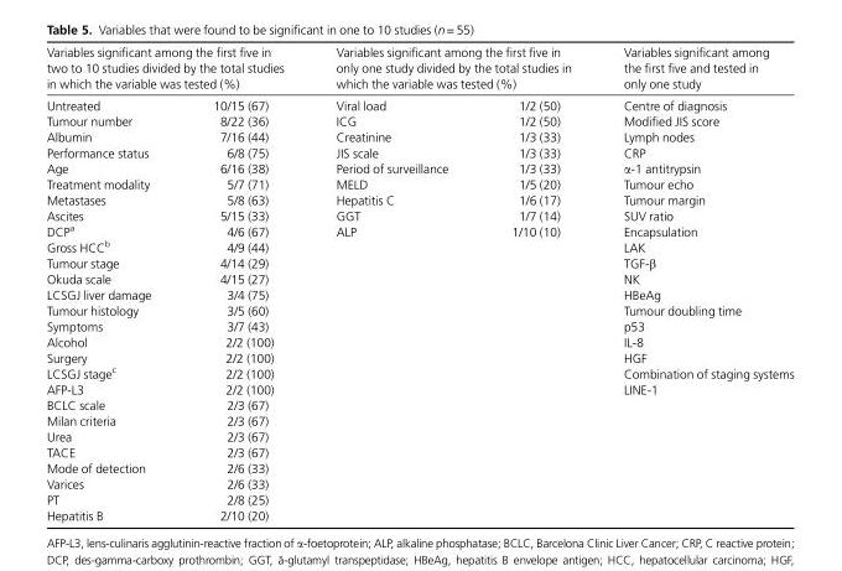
<table><thead><tr><td colspan="2">Variables significant among the first five in two to 10 studies divided by the total studies in which the variable was tested (%)</td><td colspan="2">Variables significant among the first five in only one study divided by the total studies in which the variable was tested (%)</td><td rowspan="2">Variables significant among the first five and tested in only one study Centre of diagnosis</td></tr><tr><td>Untreated</td><td>10/15 (67)</td><td>Viral load</td><td>1/2 (50)</td></tr></thead><tbody><tr><td>Tumour number</td><td>8/22 (36)</td><td>ICG</td><td>1/2 (50)</td><td>Modified JIS score</td></tr><tr><td>Albumin</td><td>7/16 (44)</td><td>Creatinine</td><td>1/3 (33)</td><td>Lymph nodes</td></tr><tr><td>Performance status</td><td>6/8 (75)</td><td>JIS scale</td><td>1/3 (33)</td><td>CRP</td></tr><tr><td>Age</td><td>6/16 (38)</td><td>Period of surveillance</td><td>1/3 (33)</td><td>α-1 antitrypsin</td></tr><tr><td>Treatment modality</td><td>5/7 (71)</td><td>MELD</td><td>1/5 (20)</td><td>Tumour echo</td></tr><tr><td>Metastases</td><td>5/8 (63)</td><td>Hepatitis C</td><td>1/6 (17)</td><td>Tumour margin</td></tr><tr><td>Ascites</td><td>5/15 (33)</td><td>GGT</td><td>1/7 (14)</td><td>SUV ratio</td></tr><tr><td>DCP<sup>a</sup></td><td>4/6 (67)</td><td>ALP</td><td>1/10 (10)</td><td>Encapsulation</td></tr><tr><td>Gross HCC<sup>b</sup></td><td>4/9 (44)</td><td></td><td></td><td>LAK</td></tr><tr><td>Tumour stage</td><td>4/14 (29)</td><td></td><td></td><td>TGF-β</td></tr><tr><td>Okuda scale</td><td>4/15 (27)</td><td></td><td></td><td>NK</td></tr><tr><td>LCSGJ liver damage</td><td>3/4 (75)</td><td></td><td></td><td>HBeAg</td></tr><tr><td>Tumour histology</td><td>3/5 (60)</td><td></td><td></td><td>Tumour doubling time</td></tr><tr><td>Symptoms</td><td>3/7 (43)</td><td></td><td></td><td>p53</td></tr><tr><td>Alcohol</td><td>2/2 (100)</td><td></td><td></td><td>IL-8</td></tr><tr><td>Surgery</td><td>2/2 (100)</td><td></td><td></td><td>HGF</td></tr><tr><td>LCSGJ stage<sup>c</sup></td><td>2/2 (100)</td><td></td><td></td><td>Combination of staging systems</td></tr><tr><td>AFP-L3</td><td>2/2 (100)</td><td></td><td></td><td>LINE-1</td></tr><tr><td>BCLC scale</td><td>2/3 (67)</td><td></td><td></td><td></td></tr><tr><td>Milan criteria</td><td>2/3 (67)</td><td></td><td></td><td></td></tr><tr><td>Urea</td><td>2/3 (67)</td><td></td><td></td><td></td></tr><tr><td>TACE</td><td>2/3 (67)</td><td></td><td></td><td></td></tr><tr><td>Mode of detection</td><td>2/6 (33)</td><td></td><td></td><td></td></tr><tr><td>Varices</td><td>2/6 (33)</td><td></td><td></td><td></td></tr><tr><td>PT</td><td>2/8 (25)</td><td></td><td></td><td></td></tr><tr><td>Hepatitis B</td><td>2/10 (20)</td><td></td><td></td><td></td></tr></tbody></table>